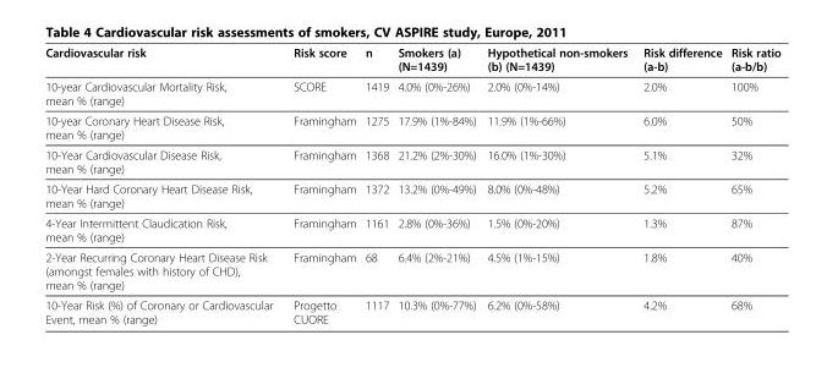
<table><thead><tr><td>Cardiovascular risk</td><td>Risk score</td><td>n</td><td>Smokers (a) (N=1439)</td><td>Hypothetical non-smokers (b) (N=1439)</td><td>Risk difference (a-b)</td><td>Risk ratio (a-b/b)</td></tr></thead><tbody><tr><td>10-year Cardiovascular Mortality Risk, mean % (range)</td><td>SCORE</td><td>1419</td><td>4.0% (0%-26%)</td><td>2.0% (0%-14%)</td><td>2.0%</td><td>100%</td></tr><tr><td>10-year Coronary Heart Disease Risk, mean % (range)</td><td>Framingham</td><td>1275</td><td>17.9% (1%-84%)</td><td>11.9% (1%-66%)</td><td>6.0%</td><td>50%</td></tr><tr><td>10-Year Cardiovascular Disease Risk, mean % (range)</td><td>Framingham</td><td>1368</td><td>21.2% (2%-30%)</td><td>16.0% (1%-30%)</td><td>5.1%</td><td>32%</td></tr><tr><td>10-Year Hard Coronary Heart Disease Risk, mean % (range)</td><td>Framingham</td><td>1372</td><td>13.2% (0%-49%)</td><td>8.0% (0%-48%)</td><td>5.2%</td><td>65%</td></tr><tr><td>4-Year Intermittent Claudication Risk, mean % (range)</td><td>Framingham</td><td>1161</td><td>2.8% (0%-36%)</td><td>1.5% (0%-20%)</td><td>1.3%</td><td>87%</td></tr><tr><td>2-Year Recurring Coronary Heart Disease Risk (amongst females with history of CHD), mean % (range)</td><td>Framingham</td><td>68</td><td>6.4% (2%-21%)</td><td>4.5% (1%-15%)</td><td>1.8%</td><td>40%</td></tr><tr><td>10-Year Risk (%) of Coronary or Cardiovascular Event, mean % (range)</td><td>Progetto CUORE</td><td>1117</td><td>10.3% (0%-77%)</td><td>6.2% (0%-58%)</td><td>4.2%</td><td>68%</td></tr></tbody></table>